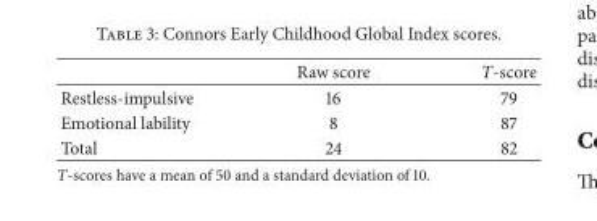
<table><thead><tr><td></td><td>Raw score</td><td>T-score</td></tr></thead><tbody><tr><td>Restless-impulsive</td><td>16</td><td>79</td></tr><tr><td>Emotional lability</td><td>8</td><td>87</td></tr><tr><td>Total</td><td>24</td><td>82</td></tr></tbody></table>